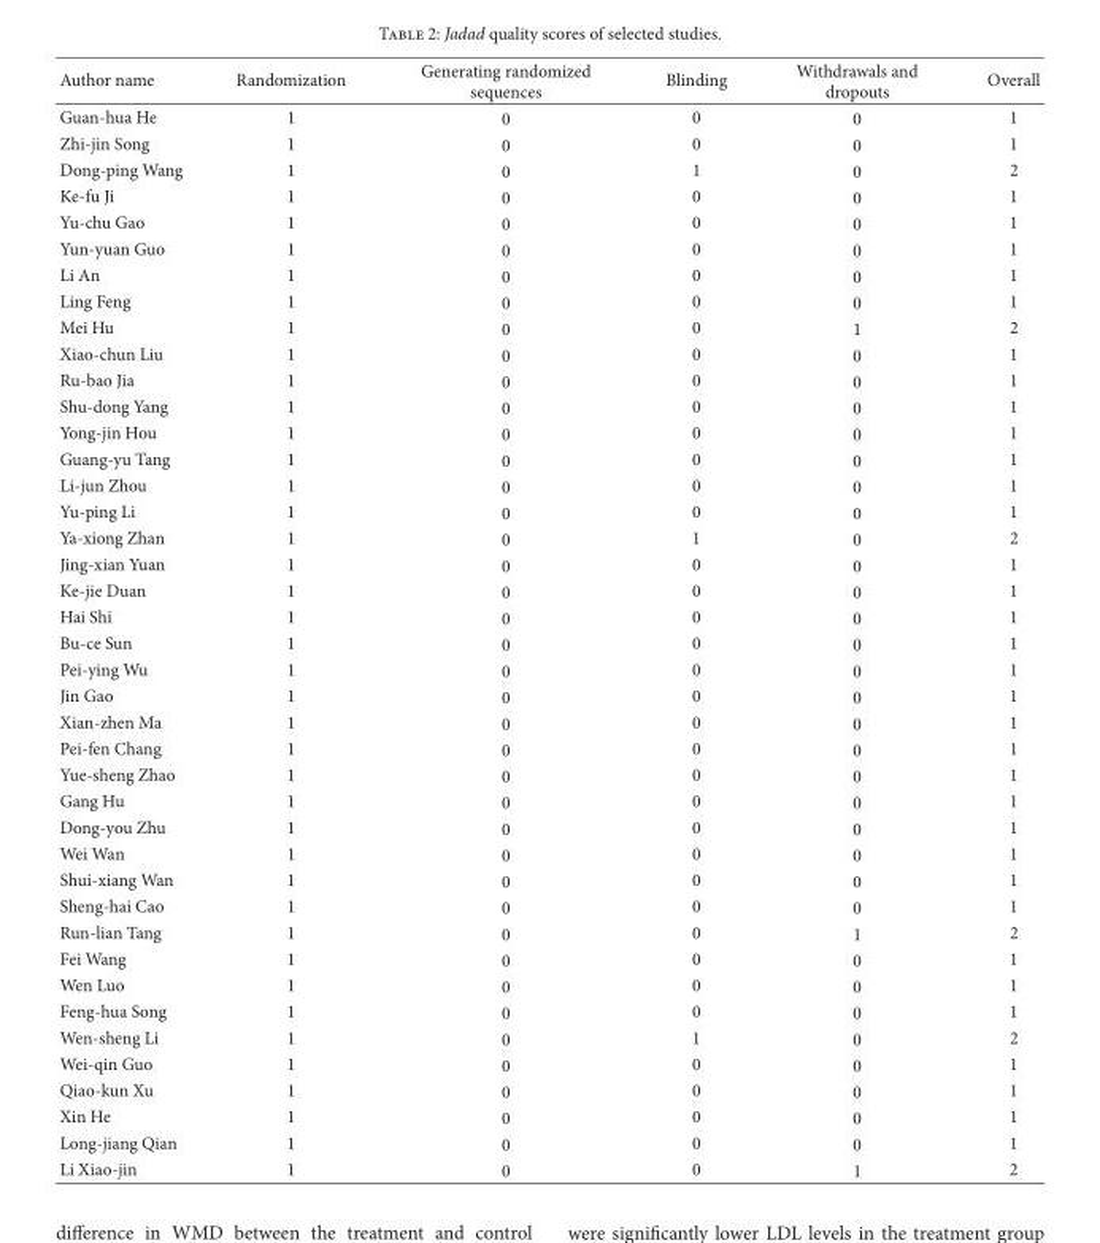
<table><thead><tr><td>Author name</td><td>Randomization</td><td>Generating randomized sequences</td><td>Blinding</td><td>Withdrawals and dropouts</td><td>Overall</td></tr></thead><tbody><tr><td>Guan-hua He</td><td>1</td><td>0</td><td>0</td><td>0</td><td>1</td></tr><tr><td>Zhi-jin Song</td><td>1</td><td>0</td><td>0</td><td>0</td><td>1</td></tr><tr><td>Dong-ping Wang</td><td>1</td><td>0</td><td>1</td><td>0</td><td>2</td></tr><tr><td>Ke-fu Ji</td><td>1</td><td>0</td><td>0</td><td>0</td><td>1</td></tr><tr><td>Yu-chu Gao</td><td>1</td><td>0</td><td>0</td><td>0</td><td>1</td></tr><tr><td>Yun-yuan Guo</td><td>1</td><td>0</td><td>0</td><td>0</td><td>1</td></tr><tr><td>Li An</td><td>1</td><td>0</td><td>0</td><td>0</td><td>1</td></tr><tr><td>Ling Feng</td><td>1</td><td>0</td><td>0</td><td>0</td><td>1</td></tr><tr><td>Mei Hu</td><td>1</td><td>0</td><td>0</td><td>1</td><td>2</td></tr><tr><td>Xiao-chun Liu</td><td>1</td><td>0</td><td>0</td><td>0</td><td>1</td></tr><tr><td>Ru-bao Jia</td><td>1</td><td>0</td><td>0</td><td>0</td><td>1</td></tr><tr><td>Shu-dong Yang</td><td>1</td><td>0</td><td>0</td><td>0</td><td>1</td></tr><tr><td>Yong-jin Hou</td><td>1</td><td>0</td><td>0</td><td>0</td><td>1</td></tr><tr><td>Guang-yu Tang</td><td>1</td><td>0</td><td>0</td><td>0</td><td>1</td></tr><tr><td>Li-jun Zhou</td><td>1</td><td>0</td><td>0</td><td>0</td><td>1</td></tr><tr><td>Yu-ping Li</td><td>1</td><td>0</td><td>0</td><td>0</td><td>1</td></tr><tr><td>Ya-xiong Zhan</td><td>1</td><td>0</td><td>1</td><td>0</td><td>2</td></tr><tr><td>Jing-xian Yuan</td><td>1</td><td>0</td><td>0</td><td>0</td><td>1</td></tr><tr><td>Ke-jie Duan</td><td>1</td><td>0</td><td>0</td><td>0</td><td>1</td></tr><tr><td>Hai Shi</td><td>1</td><td>0</td><td>0</td><td>0</td><td>1</td></tr><tr><td>Bu-ce Sun</td><td>1</td><td>0</td><td>0</td><td>0</td><td>1</td></tr><tr><td>Pei-ying Wu</td><td>1</td><td>0</td><td>0</td><td>0</td><td>1</td></tr><tr><td>Jin Gao</td><td>1</td><td>0</td><td>0</td><td>0</td><td>1</td></tr><tr><td>Xian-zhen Ma</td><td>1</td><td>0</td><td>0</td><td>0</td><td>1</td></tr><tr><td>Pei-fen Chang</td><td>1</td><td>0</td><td>0</td><td>0</td><td>1</td></tr><tr><td>Yue-sheng Zhao</td><td>1</td><td>0</td><td>0</td><td>0</td><td>1</td></tr><tr><td>Gang Hu</td><td>1</td><td>0</td><td>0</td><td>0</td><td>1</td></tr><tr><td>Dong-you Zhu</td><td>1</td><td>0</td><td>0</td><td>0</td><td>1</td></tr><tr><td>Wei Wan</td><td>1</td><td>0</td><td>0</td><td>0</td><td>1</td></tr><tr><td>Shui-xiang Wan</td><td>1</td><td>0</td><td>0</td><td>0</td><td>1</td></tr><tr><td>Sheng-hai Cao</td><td>1</td><td>0</td><td>0</td><td>0</td><td>1</td></tr><tr><td>Run-lian Tang</td><td>1</td><td>0</td><td>0</td><td>1</td><td>2</td></tr><tr><td>Fei Wang</td><td>1</td><td>0</td><td>0</td><td>0</td><td>1</td></tr><tr><td>Wen Luo</td><td>1</td><td>0</td><td>0</td><td>0</td><td>1</td></tr><tr><td>Feng-hua Song</td><td>1</td><td>0</td><td>0</td><td>0</td><td>1</td></tr><tr><td>Wen-sheng Li</td><td>1</td><td>0</td><td>1</td><td>0</td><td>2</td></tr><tr><td>Wei-qin Guo</td><td>1</td><td>0</td><td>0</td><td>0</td><td>1</td></tr><tr><td>Qiao-kun Xu</td><td>1</td><td>0</td><td>0</td><td>0</td><td>1</td></tr><tr><td>Xin He</td><td>1</td><td>0</td><td>0</td><td>0</td><td>1</td></tr><tr><td>Long-jiang Qian</td><td>1</td><td>0</td><td>0</td><td>0</td><td>1</td></tr><tr><td>Li Xiao-jin</td><td>1</td><td>0</td><td>0</td><td>1</td><td>2</td></tr></tbody></table>